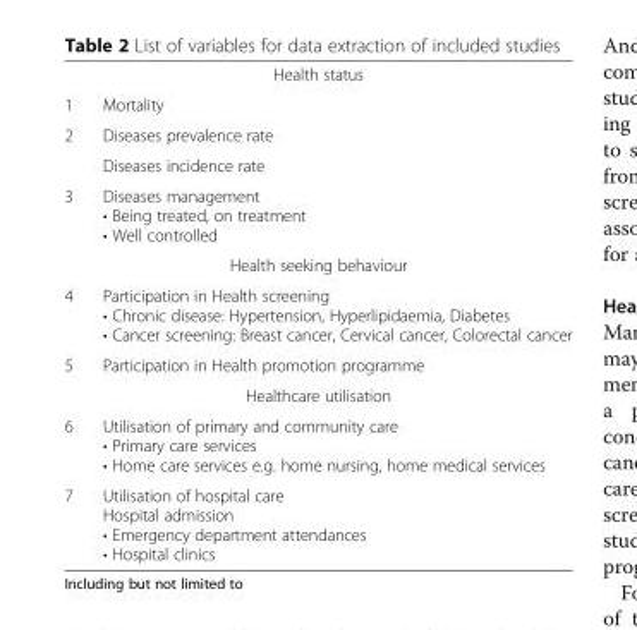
<table><tbody><tr><td colspan="2">Health status</td></tr><tr><td>1</td><td>Mortality</td></tr><tr><td rowspan="2">2</td><td>Diseases prevalence rate</td></tr><tr><td>Diseases incidence rate</td></tr><tr><td>3</td><td>Diseases management • Being treated, on treatment • Well controlled</td></tr><tr><td colspan="2">Health seeking behaviour</td></tr><tr><td>4</td><td>Participation in Health screening • Chronic disease: Hypertension, Hyperlipidaemia, Diabetes • Cancer screening: Breast cancer, Cervical cancer, Colorectal cancer</td></tr><tr><td>5</td><td>Participation in Health promotion programme</td></tr><tr><td colspan="2">Healthcare utilisation</td></tr><tr><td>6</td><td>Utilisation of primary and community care • Primary care services • Home care services e.g. home nursing, home medical services</td></tr><tr><td>7</td><td>Utilisation of hospital care Hospital admission • Emergency department attendances • Hospital clinics</td></tr></tbody></table>